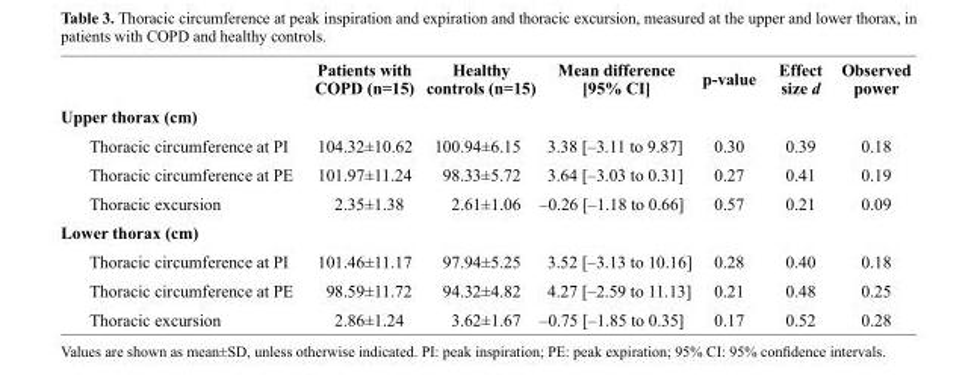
<table><thead><tr><td></td><td>Patients with COPD (n=15)</td><td>Healthy controls (n=15)</td><td>Mean difference [95% CI]</td><td>p-value</td><td>Effect size d</td><td>Observed power</td></tr></thead><tbody><tr><td colspan="7">Upper thorax (cm)</td></tr><tr><td>Thoracic circumference at PI</td><td>104.32±10.62</td><td>100.94±6.15</td><td>3.38 [–3.11 to 9.87]</td><td>0.30</td><td>0.39</td><td>0.18</td></tr><tr><td>Thoracic circumference at PE</td><td>101.97±11.24</td><td>98.33±5.72</td><td>3.64 [–3.03 to 0.31]</td><td>0.27</td><td>0.41</td><td>0.19</td></tr><tr><td>Thoracic excursion</td><td>2.35±1.38</td><td>2.61±1.06</td><td>–0.26 [–1.18 to 0.66]</td><td>0.57</td><td>0.21</td><td>0.09</td></tr><tr><td colspan="7">Lower thorax (cm)</td></tr><tr><td>Thoracic circumference at PI</td><td>101.46±11.17</td><td>97.94±5.25</td><td>3.52 [–3.13 to 10.16]</td><td>0.28</td><td>0.40</td><td>0.18</td></tr><tr><td>Thoracic circumference at PE</td><td>98.59±11.72</td><td>94.32±4.82</td><td>4.27 [–2.59 to 11.13]</td><td>0.21</td><td>0.48</td><td>0.25</td></tr><tr><td>Thoracic excursion</td><td>2.86±1.24</td><td>3.62±1.67</td><td>–0.75 [–1.85 to 0.35]</td><td>0.17</td><td>0.52</td><td>0.28</td></tr></tbody></table>